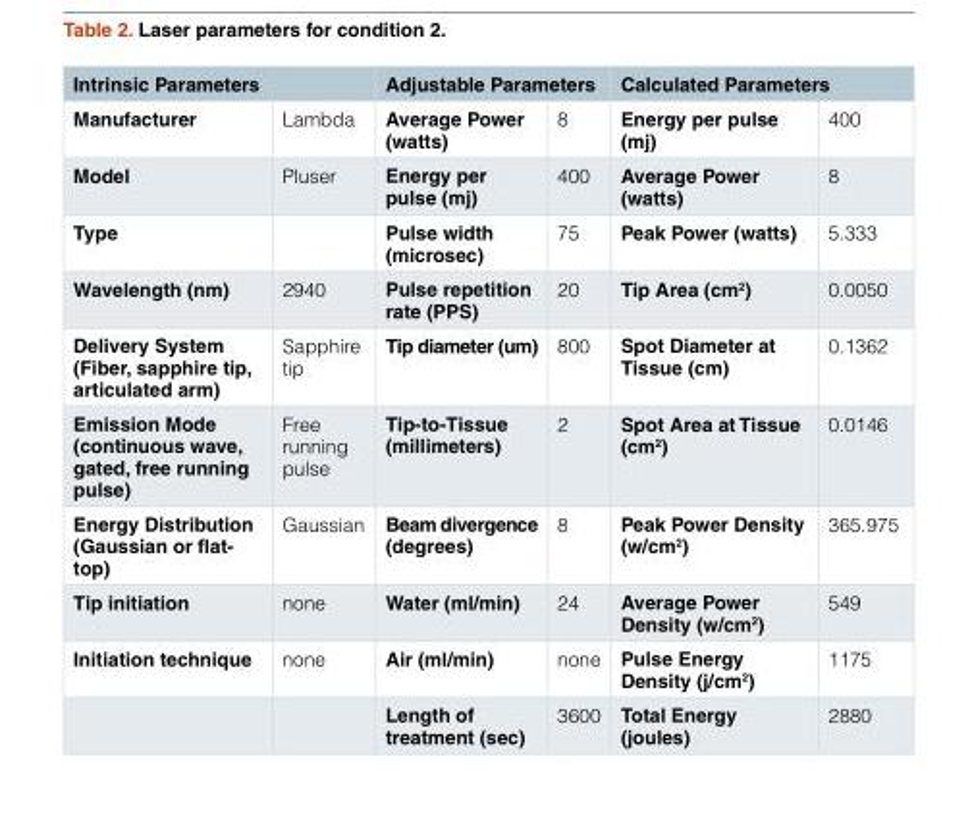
<table><thead><tr><td colspan="2">Intrinsic Parameters</td><td colspan="2">Adjustable Parameters</td><td colspan="2">Calculated Parameters</td></tr><tr><td>Manufacturer</td><td>Lambda</td><td>Average Power (watts)</td><td>8</td><td>Energy per pulse (mj)</td><td>400</td></tr></thead><tbody><tr><td>Model</td><td>Pluser</td><td>Energy per pulse (mj)</td><td>400</td><td>Average Power (watts)</td><td>8</td></tr><tr><td>Type</td><td></td><td>Pulse width (microsec)</td><td>75</td><td>Peak Power (watts)</td><td>5.333</td></tr><tr><td>Wavelength (nm)</td><td>2940</td><td>Pulse repetition rate (PPS)</td><td>20</td><td>Tip Area (cm<sup>2</sup>)</td><td>0.0050</td></tr><tr><td>Delivery System (Fiber, sapphire tip, articulated arm)</td><td>Sapphire tip</td><td>Tip diameter (um)</td><td>800</td><td>Spot Diameter at Tissue (cm)</td><td>0.1362</td></tr><tr><td>Emission Mode (continuous wave, gated, free running pulse)</td><td>Free running pulse</td><td>Tip-to-Tissue (millimeters)</td><td>2</td><td>Spot Area at Tissue (cm<sup>2</sup>)</td><td>0.0146</td></tr><tr><td>Energy Distribution (Gaussian or flat- top)</td><td>Gaussian</td><td>Beam divergence (degrees)</td><td>8</td><td>Peak Power Density (w/cm<sup>2</sup>)</td><td>365.975</td></tr><tr><td>Tip initiation</td><td>none</td><td>Water (ml/min)</td><td>24</td><td>Average Power Density (w/cm<sup>2</sup>)</td><td>549</td></tr><tr><td rowspan="2">Initiation technique</td><td>none</td><td>Air (ml/min)</td><td>none</td><td>Pulse Energy Density (j/cm<sup>2</sup>)</td><td>1175</td></tr><tr><td></td><td>Length of treatment (sec)</td><td>3600</td><td>Total Energy (joules)</td><td>2880</td></tr></tbody></table>